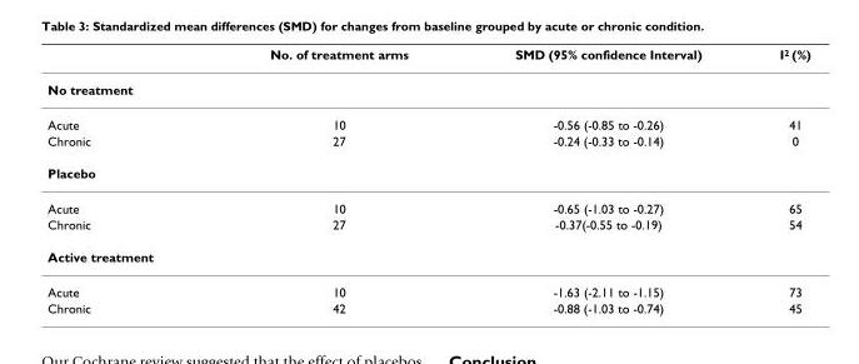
<table><thead><tr><td></td><td>No. of treatment arms</td><td>SMD (95% confidence Interval)</td><td>I<sup>2</sup> (%)</td></tr></thead><tbody><tr><td colspan="4">No treatment</td></tr><tr><td>Acute</td><td>10</td><td>-0.56 (-0.85 to -0.26)</td><td>41</td></tr><tr><td>Chronic</td><td>27</td><td>-0.24 (-0.33 to -0.14)</td><td>0</td></tr><tr><td colspan="4">Placebo</td></tr><tr><td>Acute</td><td>10</td><td>-0.65 (-1.03 to -0.27)</td><td>65</td></tr><tr><td>Chronic</td><td>27</td><td>-0.37(-0.55 to -0.19)</td><td>54</td></tr><tr><td colspan="4">Active treatment</td></tr><tr><td>Acute</td><td>10</td><td>-1.63 (-2.11 to -1.15)</td><td>73</td></tr><tr><td>Chronic</td><td>42</td><td>-0.88 (-1.03 to -0.74)</td><td>45</td></tr></tbody></table>